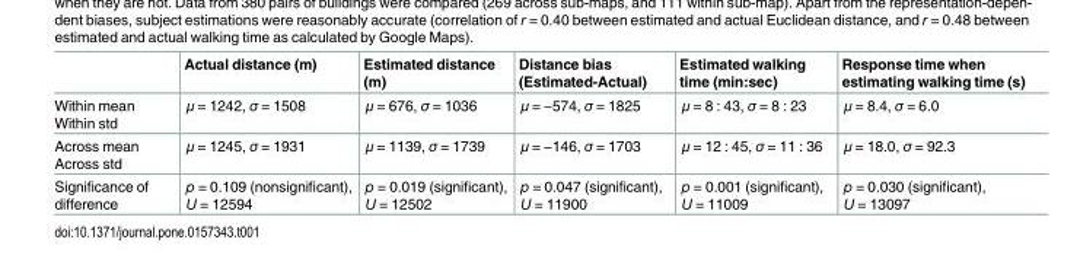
<table><thead><tr><td></td><td>Actual distance (m)</td><td>Estimated distance (m)</td><td>Distance bias (Estimated-Actual)</td><td>Estimated walking time (min:sec)</td><td>Response time when estimating walking time (s)</td></tr></thead><tbody><tr><td>Within mean Within std</td><td>μ = 1242, σ = 1508</td><td>μ = 676, σ = 1036</td><td>μ = −574, σ = 1825</td><td>μ = 8 : 43, σ = 8 : 23</td><td>μ = 8.4, σ = 6.0</td></tr><tr><td>Across mean Across std</td><td>μ = 1245, σ = 1931</td><td>μ = 1139, σ = 1739</td><td>μ = −146, σ = 1703</td><td>μ = 12 : 45, σ = 11 : 36</td><td>μ = 18.0, σ = 92.3</td></tr><tr><td>Significance of difference</td><td>p = 0.109 (nonsignificant), U = 12594</td><td>p = 0.019 (significant), U = 12502</td><td>p = 0.047 (significant), U = 11900</td><td>p = 0.001 (significant), U = 11009</td><td>p = 0.030 (significant), U = 13097</td></tr></tbody></table>